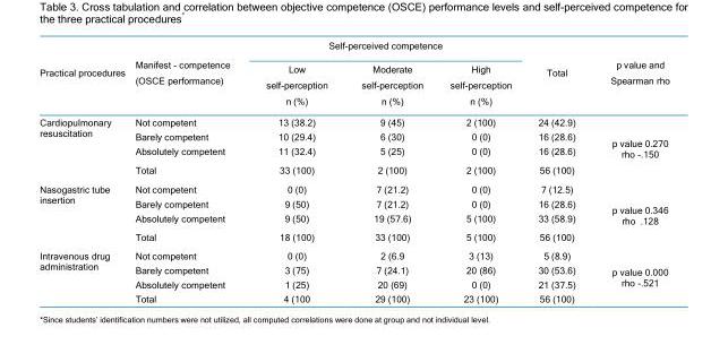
<table><thead><tr><td rowspan="2">Practical procedures</td><td rowspan="2">Manifest - competence (OSCE performance)</td><td colspan="3">Self-perceived competence</td><td rowspan="2">Total</td><td rowspan="2">p value and Spearman rho</td></tr><tr><td>Low self-perception n (%)</td><td>Moderate self-perception n (%)</td><td>High self-perception n (%)</td></tr></thead><tbody><tr><td rowspan="4">Cardiopulmonary resuscitation</td><td>Not competent</td><td>13 (38.2)</td><td>9 (45)</td><td>2 (100)</td><td>24 (42.9)</td><td rowspan="4">p value 0.270 rho -.150</td></tr><tr><td>Barely competent</td><td>10 (29.4)</td><td>6 (30)</td><td>0 (0)</td><td>16 (28.6)</td></tr><tr><td>Absolutely competent</td><td>11 (32.4)</td><td>5 (25)</td><td>0 (0)</td><td>16 (28.6)</td></tr><tr><td>Total</td><td>33 (100)</td><td>2 (100)</td><td>2 (100)</td><td>56 (100)</td></tr><tr><td rowspan="4">Nasogastric tube insertion</td><td>Not competent</td><td>0 (0)</td><td>7 (21.2)</td><td>0 (0)</td><td>7 (12.5)</td><td rowspan="4">p value 0.346 rho .128</td></tr><tr><td>Barely competent</td><td>9 (50)</td><td>7 (21.2)</td><td>0 (0)</td><td>16 (28.6)</td></tr><tr><td>Absolutely competent</td><td>9 (50)</td><td>19 (57.6)</td><td>5 (100)</td><td>33 (58.9)</td></tr><tr><td>Total</td><td>18 (100)</td><td>33 (100)</td><td>5 (100)</td><td>56 (100)</td></tr><tr><td rowspan="4">Intravenous drug administration</td><td>Not competent</td><td>0 (0)</td><td>2 (6.9</td><td>3 (13)</td><td>5 (8.9)</td><td rowspan="4">p value 0.000 rho -.521</td></tr><tr><td>Barely competent</td><td>3 (75)</td><td>7 (24.1)</td><td>20 (86)</td><td>30 (53.6)</td></tr><tr><td>Absolutely competent</td><td>1 (25)</td><td>20 (69)</td><td>0 (0)</td><td>21 (37.5)</td></tr><tr><td>Total</td><td>4 (100</td><td>29 (100)</td><td>23 (100)</td><td>56 (100)</td></tr></tbody></table>